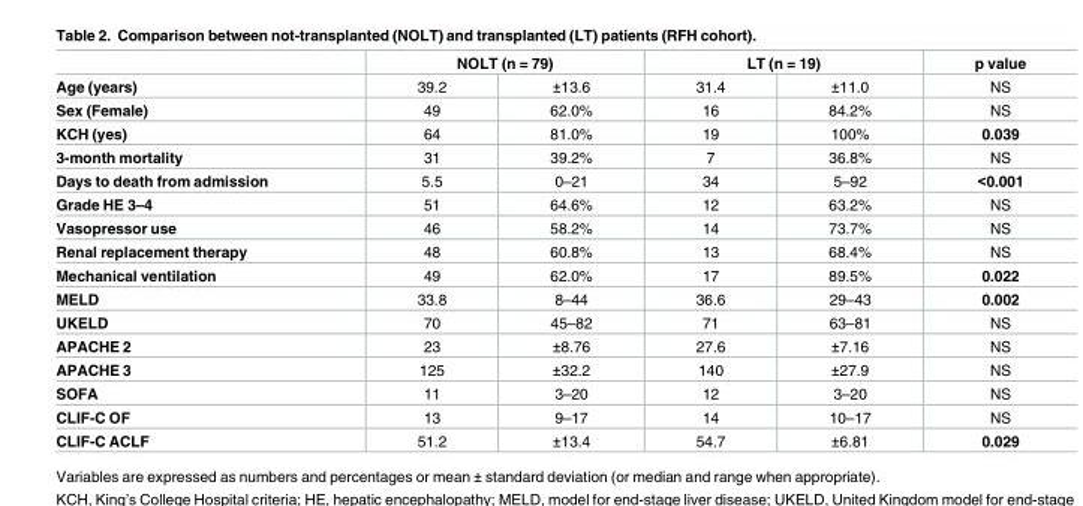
<table><thead><tr><td rowspan="2">Age (years)</td><td colspan="2">NOLT (n = 79)</td><td colspan="2">LT (n = 19)</td><td rowspan="2">p value NS</td></tr><tr><td>39.2</td><td>±13.6</td><td>31.4</td><td>±11.0</td></tr></thead><tbody><tr><td>Sex (Female)</td><td>49</td><td>62.0%</td><td>16</td><td>84.2%</td><td>NS</td></tr><tr><td>KCH (yes)</td><td>64</td><td>81.0%</td><td>19</td><td>100%</td><td>0.039</td></tr><tr><td>3-month mortality</td><td>31</td><td>39.2%</td><td>7</td><td>36.8%</td><td>NS</td></tr><tr><td>Days to death from admission</td><td>5.5</td><td>0–21</td><td>34</td><td>5–92</td><td>&lt;0.001</td></tr><tr><td>Grade HE 3–4</td><td>51</td><td>64.6%</td><td>12</td><td>63.2%</td><td>NS</td></tr><tr><td>Vasopressor use</td><td>46</td><td>58.2%</td><td>14</td><td>73.7%</td><td>NS</td></tr><tr><td>Renal replacement therapy</td><td>48</td><td>60.8%</td><td>13</td><td>68.4%</td><td>NS</td></tr><tr><td>Mechanical ventilation</td><td>49</td><td>62.0%</td><td>17</td><td>89.5%</td><td>0.022</td></tr><tr><td>MELD</td><td>33.8</td><td>8–44</td><td>36.6</td><td>29–43</td><td>0.002</td></tr><tr><td>UKELD</td><td>70</td><td>45–82</td><td>71</td><td>63–81</td><td>NS</td></tr><tr><td>APACHE 2</td><td>23</td><td>±8.76</td><td>27.6</td><td>±7.16</td><td>NS</td></tr><tr><td>APACHE 3</td><td>125</td><td>±32.2</td><td>140</td><td>±27.9</td><td>NS</td></tr><tr><td>SOFA</td><td>11</td><td>3–20</td><td>12</td><td>3–20</td><td>NS</td></tr><tr><td>CLIF-C OF</td><td>13</td><td>9–17</td><td>14</td><td>10–17</td><td>NS</td></tr><tr><td>CLIF-C ACLF</td><td>51.2</td><td>±13.4</td><td>54.7</td><td>±6.81</td><td>0.029</td></tr></tbody></table>